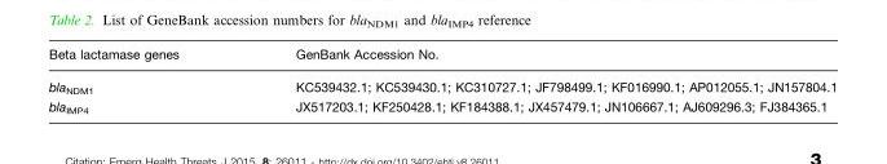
<table><thead><tr><td>Beta lactamase genes</td><td>GenBank Accession No.</td></tr></thead><tbody><tr><td>bla<sub>NDM1</sub></td><td>KC539432.1; KC539430.1; KC310727.1; JF798499.1; KF016990.1; AP012055.1; JN157804.1</td></tr><tr><td>bla<sub>IMP4</sub></td><td>JX517203.1; KF250428.1; KF184388.1; JX457479.1; JN106667.1; AJ609296.3; FJ384365.1</td></tr></tbody></table>